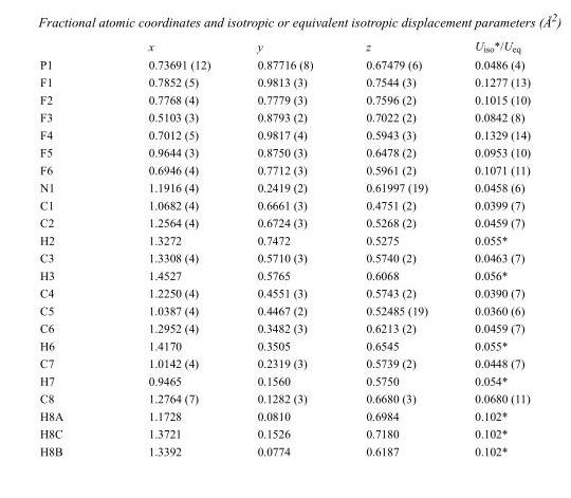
<table><thead><tr><td></td><td>x</td><td>y</td><td>z</td><td>U<sub>iso</sub>*/U<sub>eq</sub></td></tr></thead><tbody><tr><td>P1</td><td>0.73691 (12)</td><td>0.87716 (8)</td><td>0.67479 (6)</td><td>0.0486 (4)</td></tr><tr><td>F1</td><td>0.7852 (5)</td><td>0.9813 (3)</td><td>0.7544 (3)</td><td>0.1277 (13)</td></tr><tr><td>F2</td><td>0.7768 (4)</td><td>0.7779 (3)</td><td>0.7596 (2)</td><td>0.1015 (10)</td></tr><tr><td>F3</td><td>0.5103 (3)</td><td>0.8793 (2)</td><td>0.7022 (2)</td><td>0.0842 (8)</td></tr><tr><td>F4</td><td>0.7012 (5)</td><td>0.9817 (4)</td><td>0.5943 (3)</td><td>0.1329 (14)</td></tr><tr><td>F5</td><td>0.9644 (3)</td><td>0.8750 (3)</td><td>0.6478 (2)</td><td>0.0953 (10)</td></tr><tr><td>F6</td><td>0.6946 (4)</td><td>0.7712 (3)</td><td>0.5961 (2)</td><td>0.1071 (11)</td></tr><tr><td>N1</td><td>1.1916 (4)</td><td>0.2419 (2)</td><td>0.61997 (19)</td><td>0.0458 (6)</td></tr><tr><td>C1</td><td>1.0682 (4)</td><td>0.6661 (3)</td><td>0.4751 (2)</td><td>0.0399 (7)</td></tr><tr><td>C2</td><td>1.2564 (4)</td><td>0.6724 (3)</td><td>0.5268 (2)</td><td>0.0459 (7)</td></tr><tr><td>H2</td><td>1.3272</td><td>0.7472</td><td>0.5275</td><td>0.055*</td></tr><tr><td>C3</td><td>1.3308 (4)</td><td>0.5710 (3)</td><td>0.5740 (2)</td><td>0.0463 (7)</td></tr><tr><td>H3</td><td>1.4527</td><td>0.5765</td><td>0.6068</td><td>0.056*</td></tr><tr><td>C4</td><td>1.2250 (4)</td><td>0.4551 (3)</td><td>0.5743 (2)</td><td>0.0390 (7)</td></tr><tr><td>C5</td><td>1.0387 (4)</td><td>0.4467 (2)</td><td>0.52485 (19)</td><td>0.0360 (6)</td></tr><tr><td>C6</td><td>1.2952 (4)</td><td>0.3482 (3)</td><td>0.6213 (2)</td><td>0.0459 (7)</td></tr><tr><td>H6</td><td>1.4170</td><td>0.3505</td><td>0.6545</td><td>0.055*</td></tr><tr><td>C7</td><td>1.0142 (4)</td><td>0.2319 (3)</td><td>0.5739 (2)</td><td>0.0448 (7)</td></tr><tr><td>H7</td><td>0.9465</td><td>0.1560</td><td>0.5750</td><td>0.054*</td></tr><tr><td>C8</td><td>1.2764 (7)</td><td>0.1282 (3)</td><td>0.6680 (3)</td><td>0.0680 (11)</td></tr><tr><td>H8A</td><td>1.1728</td><td>0.0810</td><td>0.6984</td><td>0.102*</td></tr><tr><td>H8C</td><td>1.3721</td><td>0.1526</td><td>0.7180</td><td>0.102*</td></tr><tr><td>H8B</td><td>1.3392</td><td>0.0774</td><td>0.6187</td><td>0.102*</td></tr></tbody></table>